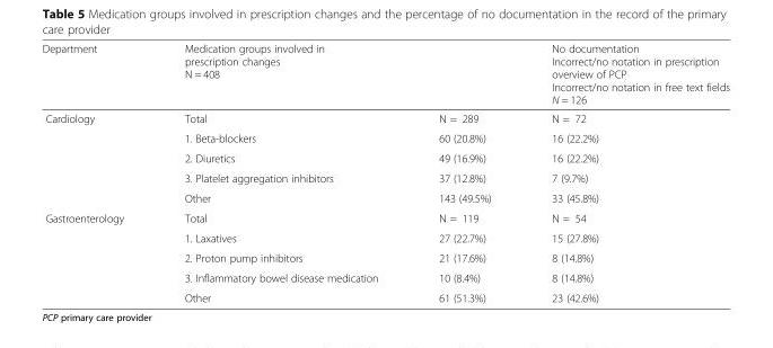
<table><thead><tr><td rowspan="2">Department Cardiology</td><td colspan="2">Medication groups involved in prescription changes N = 408</td><td rowspan="2">No documentation Incorrect/no notation in prescription overview of PCP Incorrect/no notation in free text fields N = 126 N = 72</td></tr><tr><td>Total</td><td>N = 289</td></tr></thead><tbody><tr><td rowspan="4"></td><td>1. Beta-blockers</td><td>60 (20.8%)</td><td>16 (22.2%)</td></tr><tr><td>2. Diuretics</td><td>49 (16.9%)</td><td>16 (22.2%)</td></tr><tr><td>3. Platelet aggregation inhibitors</td><td>37 (12.8%)</td><td>7 (9.7%)</td></tr><tr><td>Other</td><td>143 (49.5%)</td><td>33 (45.8%)</td></tr><tr><td rowspan="5">Gastroenterology</td><td>Total</td><td>N = 119</td><td>N = 54</td></tr><tr><td>1. Laxatives</td><td>27 (22.7%)</td><td>15 (27.8%)</td></tr><tr><td>2. Proton pump inhibitors</td><td>21 (17.6%)</td><td>8 (14.8%)</td></tr><tr><td>3. Inflammatory bowel disease medication</td><td>10 (8.4%)</td><td>8 (14.8%)</td></tr><tr><td>Other</td><td>61 (51.3%)</td><td>23 (42.6%)</td></tr></tbody></table>